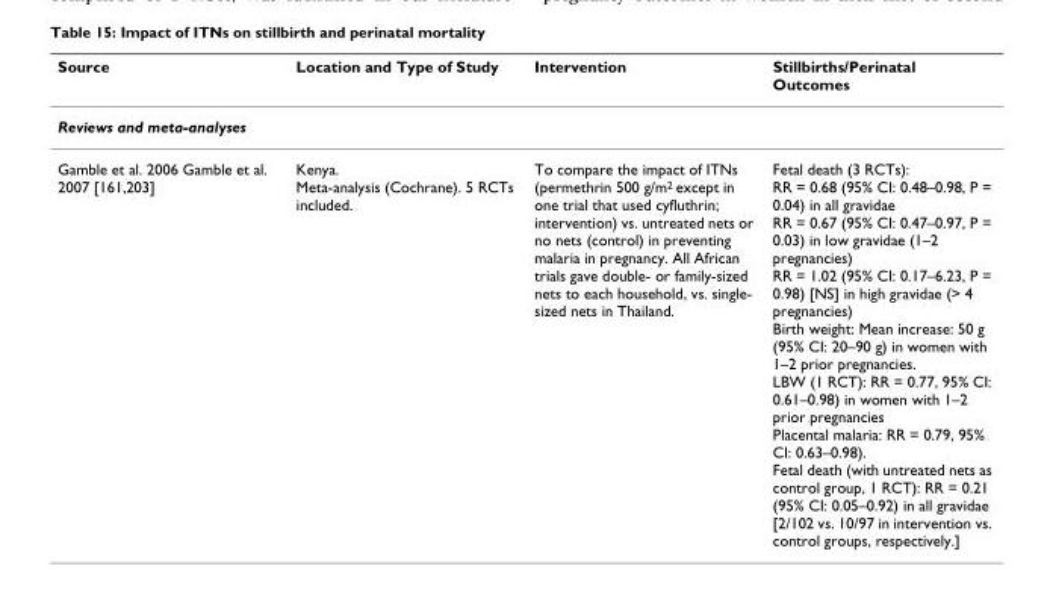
<table><thead><tr><td>Source</td><td>Location and Type of Study</td><td>Intervention</td><td>Stillbirths/Perinatal Outcomes</td></tr></thead><tbody><tr><td colspan="4">Reviews and meta-analyses</td></tr><tr><td>Gamble et al. 2006 Gamble et al. 2007 [161,203]</td><td>Kenya. Meta-analysis (Cochrane). 5 RCTs included.</td><td>To compare the impact of ITNs (permethrin 500 g/m2 except in one trial that used cyfluthrin; intervention) vs. untreated nets or no nets (control) in preventing malaria in pregnancy. All African trials gave double- or family-sized nets to each household, vs. single- sized nets in Thailand.</td><td>Fetal death (3 RCTs): RR = 0.68 (95% CI: 0.48–0.98, P = 0.04) in all gravidae RR = 0.67 (95% CI: 0.47–0.97, P = 0.03) in low gravidae (1–2 pregnancies) RR = 1.02 (95% CI: 0.17–6.23, P = 0.98) [NS] in high gravidae (&gt; 4 pregnancies) Birth weight: Mean increase: 50 g (95% CI: 20–90 g) in women with 1–2 prior pregnancies. LBW (1 RCT): RR = 0.77, 95% CI: 0.61–0.98) in women with 1–2 prior pregnancies Placental malaria: RR = 0.79, 95% CI: 0.63–0.98). Fetal death (with untreated nets as control group, 1 RCT): RR = 0.21 (95% CI: 0.05–0.92) in all gravidae [2/102 vs. 10/97 in intervention vs. control groups, respectively.]</td></tr></tbody></table>